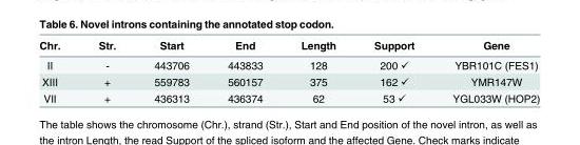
<table><thead><tr><td>Chr.</td><td>Str.</td><td>Start</td><td>End</td><td>Length</td><td>Support</td><td>Gene</td></tr></thead><tbody><tr><td>II</td><td>-</td><td>443706</td><td>443833</td><td>128</td><td>200 ✓</td><td>YBR101C (FES1)</td></tr><tr><td>XIII</td><td>+</td><td>559783</td><td>560157</td><td>375</td><td>162 ✓</td><td>YMR147W</td></tr><tr><td>VII</td><td>+</td><td>436313</td><td>436374</td><td>62</td><td>53 ✓</td><td>YGL033W (HOP2)</td></tr></tbody></table>